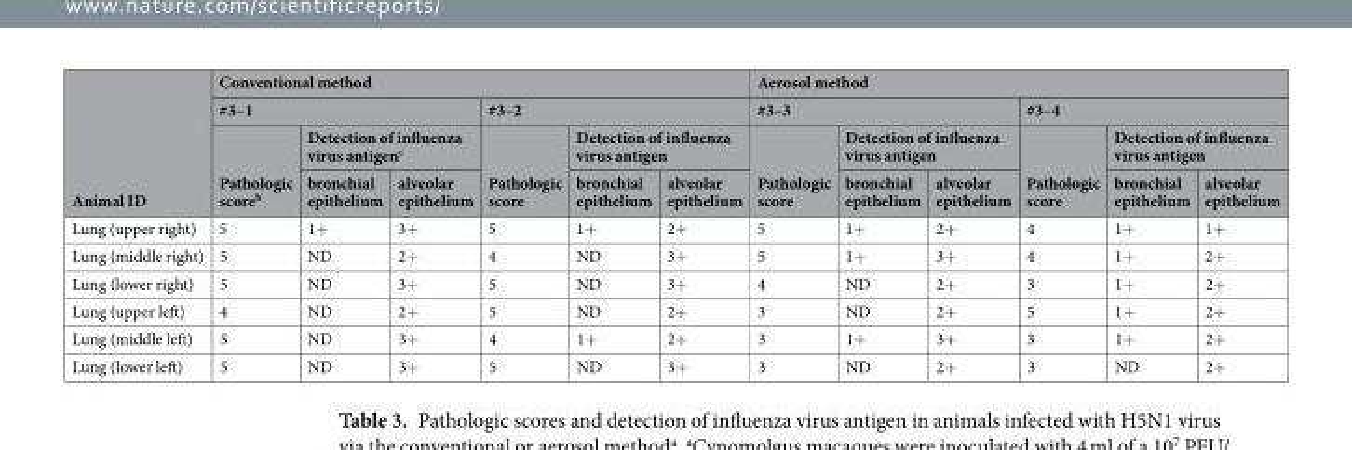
<table><thead><tr><td rowspan="4">Animal ID</td><td colspan="6">Conventional method</td><td colspan="6">Aerosol method</td></tr><tr><td colspan="3">#3–1</td><td colspan="3">#3–2</td><td colspan="3">#3–3</td><td colspan="3">#3–4</td></tr><tr><td rowspan="2">Pathologic score<sup>b</sup></td><td colspan="2">Detection of influenza virus antigen<sup>c</sup></td><td rowspan="2">Pathologic score</td><td colspan="2">Detection of influenza virus antigen</td><td rowspan="2">Pathologic score</td><td colspan="2">Detection of influenza virus antigen</td><td rowspan="2">Pathologic score</td><td colspan="2">Detection of influenza virus antigen</td></tr><tr><td>bronchial epithelium</td><td>alveolar epithelium</td><td>bronchial epithelium</td><td>alveolar epithelium</td><td>bronchial epithelium</td><td>alveolar epithelium</td><td>bronchial epithelium</td><td>alveolar epithelium</td></tr></thead><tbody><tr><td>Lung (upper right)</td><td>5</td><td>1+</td><td>3+</td><td>5</td><td>1+</td><td>2+</td><td>5</td><td>1+</td><td>2+</td><td>4</td><td>1+</td><td>1+</td></tr><tr><td>Lung (middle right)</td><td>5</td><td>ND</td><td>2+</td><td>4</td><td>ND</td><td>3+</td><td>5</td><td>1+</td><td>3+</td><td>4</td><td>1+</td><td>2+</td></tr><tr><td>Lung (lower right)</td><td>5</td><td>ND</td><td>3+</td><td>5</td><td>ND</td><td>3+</td><td>4</td><td>ND</td><td>2+</td><td>3</td><td>1+</td><td>2+</td></tr><tr><td>Lung (upper left)</td><td>4</td><td>ND</td><td>2+</td><td>5</td><td>ND</td><td>2+</td><td>3</td><td>ND</td><td>2+</td><td>5</td><td>1+</td><td>2+</td></tr><tr><td>Lung (middle left)</td><td>5</td><td>ND</td><td>3+</td><td>4</td><td>1+</td><td>2+</td><td>3</td><td>1+</td><td>3+</td><td>3</td><td>1+</td><td>2+</td></tr><tr><td>Lung (lower left)</td><td>5</td><td>ND</td><td>3+</td><td>5</td><td>ND</td><td>3+</td><td>3</td><td>ND</td><td>2+</td><td>3</td><td>ND</td><td>2+</td></tr></tbody></table>